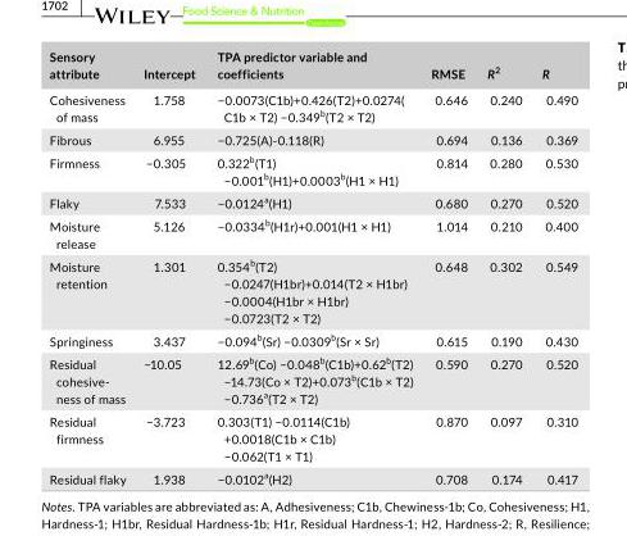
<table><thead><tr><td>Sensory attribute</td><td>Intercept</td><td>TPA predictor variable and coefficients</td><td>RMSE</td><td>R<sup>2</sup></td><td>R</td></tr></thead><tbody><tr><td>Cohesiveness of mass</td><td>1.758</td><td>−0.0073(C1b)+0.426(T2)+0.0274( C1b × T2) −0.349<sup>b</sup>(T2 × T2)</td><td>0.646</td><td>0.240</td><td>0.490</td></tr><tr><td>Fibrous</td><td>6.955</td><td>−0.725(A)- 0.118(R)</td><td>0.694</td><td>0.136</td><td>0.369</td></tr><tr><td>Firmness</td><td>−0.305</td><td>0.322<sup>b</sup>(T1) −0.001<sup>b</sup>(H1)+0.0003<sup>b</sup>(H1 × H1)</td><td>0.814</td><td>0.280</td><td>0.530</td></tr><tr><td>Flaky</td><td>7.533</td><td>−0.0124<sup>a</sup>(H1)</td><td>0.680</td><td>0.270</td><td>0.520</td></tr><tr><td>Moisture release</td><td>5.126</td><td>−0.0334<sup>b</sup>(H1r)+0.001(H1 × H1)</td><td>1.014</td><td>0.210</td><td>0.400</td></tr><tr><td>Moisture retention</td><td>1.301</td><td>0.354<sup>b</sup>(T2) −0.0247(H1br)+0.014(T2 × H1br) −0.0004(H1br × H1br) −0.0723(T2 × T2)</td><td>0.648</td><td>0.302</td><td>0.549</td></tr><tr><td>Springiness</td><td>3.437</td><td>−0.094<sup>b</sup>(Sr) −0.0309<sup>b</sup>(Sr × Sr)</td><td>0.615</td><td>0.190</td><td>0.430</td></tr><tr><td>Residual cohesive- ness of mass</td><td>−10.05</td><td>12.69<sup>b</sup>(Co) −0.048<sup>b</sup>(C1b)+0.62<sup>b</sup>(T2) −14.73(Co × T2)+0.073<sup>b</sup>(C1b × T2) −0.736<sup>a</sup>(T2 × T2)</td><td>0.590</td><td>0.270</td><td>0.520</td></tr><tr><td>Residual firmness</td><td>−3.723</td><td>0.303(T1) −0.0114(C1b) +0.0018(C1b × C1b) −0.062(T1 × T1)</td><td>0.870</td><td>0.097</td><td>0.310</td></tr><tr><td>Residual flaky</td><td>1.938</td><td>−0.0102<sup>a</sup>(H2)</td><td>0.708</td><td>0.174</td><td>0.417</td></tr></tbody></table>